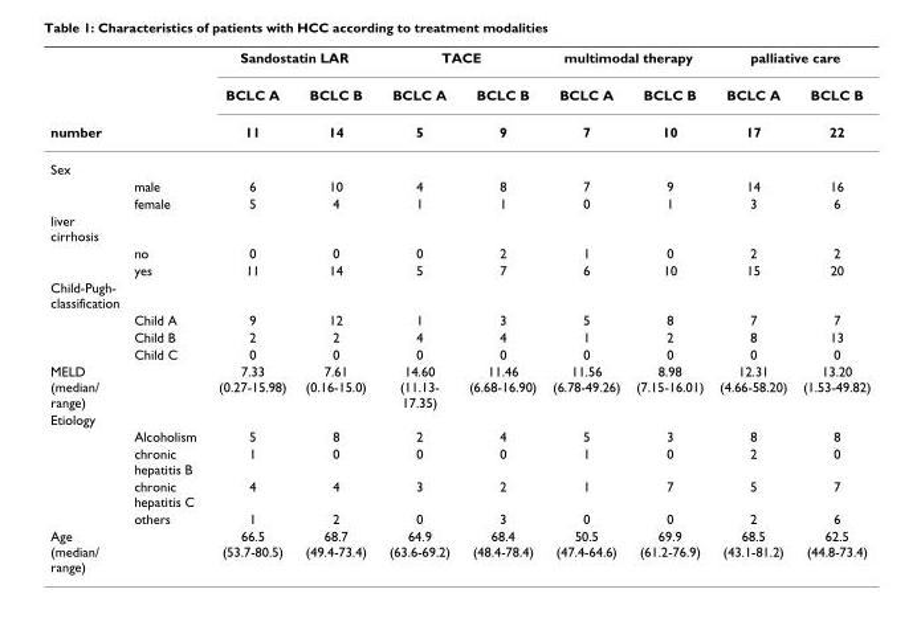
<table><thead><tr><td rowspan="3">number</td><td rowspan="3"></td><td colspan="2">Sandostatin LAR</td><td colspan="2">TACE</td><td colspan="2">multimodal therapy</td><td colspan="2">palliative care</td></tr><tr><td rowspan="2">BCLC A 11</td><td rowspan="2">BCLC B 14</td><td rowspan="2">BCLC A 5</td><td rowspan="2">BCLC B 9</td><td rowspan="2">BCLC A 7</td><td rowspan="2">BCLC B 10</td><td rowspan="2">BCLC A 17</td><td rowspan="2">BCLC B 22</td></tr><tr></tr></thead><tbody><tr><td colspan="10">Sex</td></tr><tr><td></td><td>male</td><td>6</td><td>10</td><td>4</td><td>8</td><td>7</td><td>9</td><td>14</td><td>16</td></tr><tr><td></td><td>female</td><td>5</td><td>4</td><td>1</td><td>1</td><td>0</td><td>1</td><td>3</td><td>6</td></tr><tr><td colspan="10">liver cirrhosis</td></tr><tr><td></td><td>no</td><td>0</td><td>0</td><td>0</td><td>2</td><td>1</td><td>0</td><td>2</td><td>2</td></tr><tr><td></td><td>yes</td><td>11</td><td>14</td><td>5</td><td>7</td><td>6</td><td>10</td><td>15</td><td>20</td></tr><tr><td colspan="10">Child-Pugh- classification</td></tr><tr><td></td><td>Child A</td><td>9</td><td>12</td><td>1</td><td>3</td><td>5</td><td>8</td><td>7</td><td>7</td></tr><tr><td></td><td>Child B</td><td>2</td><td>2</td><td>4</td><td>4</td><td>1</td><td>2</td><td>8</td><td>13</td></tr><tr><td></td><td>Child C</td><td>0</td><td>0</td><td>0</td><td>0</td><td>0</td><td>0</td><td>0</td><td>0</td></tr><tr><td>MELD (median/ range)</td><td></td><td>7.33 (0.27-15.98)</td><td>7.61 (0.16-15.0)</td><td>14.60 (11.13- 17.35)</td><td>11.46 (6.68-16.90)</td><td>11.56 (6.78-49.26)</td><td>8.98 (7.15-16.01)</td><td>12.31 (4.66-58.20)</td><td>13.20 (1.53-49.82)</td></tr><tr><td colspan="10">Etiology</td></tr><tr><td></td><td>Alcoholism</td><td>5</td><td>8</td><td>2</td><td>4</td><td>5</td><td>3</td><td>8</td><td>8</td></tr><tr><td></td><td>chronic hepatitis B</td><td>1</td><td>0</td><td>0</td><td>0</td><td>1</td><td>0</td><td>2</td><td>0</td></tr><tr><td></td><td>chronic hepatitis C</td><td>4</td><td>4</td><td>3</td><td>2</td><td>1</td><td>7</td><td>5</td><td>7</td></tr><tr><td></td><td>others</td><td>1</td><td>2</td><td>0</td><td>3</td><td>0</td><td>0</td><td>2</td><td>6</td></tr><tr><td>Age (median/ range)</td><td></td><td>66.5 (53.7-80.5)</td><td>68.7 (49.4-73.4)</td><td>64.9 (63.6-69.2)</td><td>68.4 (48.4-78.4)</td><td>50.5 (47.4-64.6)</td><td>69.9 (61.2-76.9)</td><td>68.5 (43.1-81.2)</td><td>62.5 (44.8-73.4)</td></tr></tbody></table>